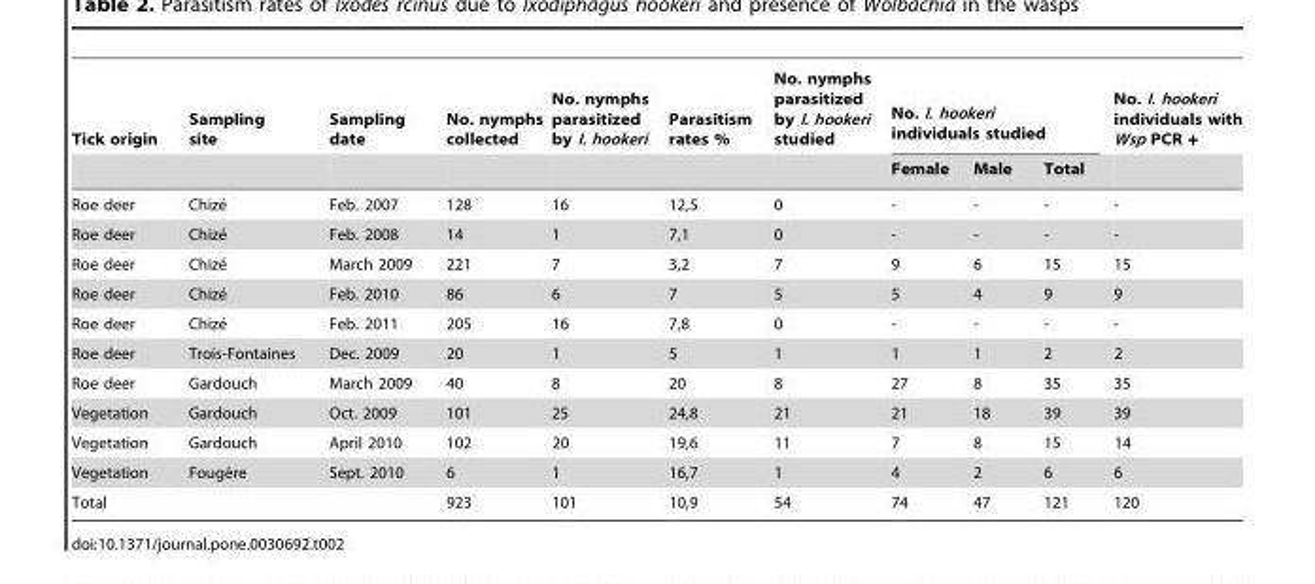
<table><thead><tr><td rowspan="2">Tick origin</td><td rowspan="2">Sampling site</td><td rowspan="2">Sampling date</td><td rowspan="2">No. nymphs collected</td><td rowspan="2">No. nymphs parasitized by I. hookeri</td><td rowspan="2">Parasitism rates %</td><td rowspan="2">No. nymphs parasitized by I. hookeri studied</td><td colspan="3">No. I. hookeri individuals studied</td><td rowspan="2">No. I. hookeri individuals with Wsp PCR +</td></tr><tr><td>Female</td><td>Male</td><td>Total</td></tr></thead><tbody><tr><td>Roe deer</td><td>Chize´</td><td>Feb. 2007</td><td>128</td><td>16</td><td>12,5</td><td>0</td><td>-</td><td>-</td><td>-</td><td>-</td></tr><tr><td>Roe deer</td><td>Chize´</td><td>Feb. 2008</td><td>14</td><td>1</td><td>7,1</td><td>0</td><td>-</td><td>-</td><td>-</td><td>-</td></tr><tr><td>Roe deer</td><td>Chize´</td><td>March 2009</td><td>221</td><td>7</td><td>3,2</td><td>7</td><td>9</td><td>6</td><td>15</td><td>15</td></tr><tr><td>Roe deer</td><td>Chize´</td><td>Feb. 2010</td><td>86</td><td>6</td><td>7</td><td>5</td><td>5</td><td>4</td><td>9</td><td>9</td></tr><tr><td>Roe deer</td><td>Chize´</td><td>Feb. 2011</td><td>205</td><td>16</td><td>7,8</td><td>0</td><td>-</td><td>-</td><td>-</td><td>-</td></tr><tr><td>Roe deer</td><td>Trois-Fontaines</td><td>Dec. 2009</td><td>20</td><td>1</td><td>5</td><td>1</td><td>1</td><td>1</td><td>2</td><td>2</td></tr><tr><td>Roe deer</td><td>Gardouch</td><td>March 2009</td><td>40</td><td>8</td><td>20</td><td>8</td><td>27</td><td>8</td><td>35</td><td>35</td></tr><tr><td>Vegetation</td><td>Gardouch</td><td>Oct. 2009</td><td>101</td><td>25</td><td>24,8</td><td>21</td><td>21</td><td>18</td><td>39</td><td>39</td></tr><tr><td>Vegetation</td><td>Gardouch</td><td>April 2010</td><td>102</td><td>20</td><td>19,6</td><td>11</td><td>7</td><td>8</td><td>15</td><td>14</td></tr><tr><td>Vegetation</td><td>Fouge`re</td><td>Sept. 2010</td><td>6</td><td>1</td><td>16,7</td><td>1</td><td>4</td><td>2</td><td>6</td><td>6</td></tr><tr><td>Total</td><td></td><td></td><td>923</td><td>101</td><td>10,9</td><td>54</td><td>74</td><td>47</td><td>121</td><td>120</td></tr></tbody></table>